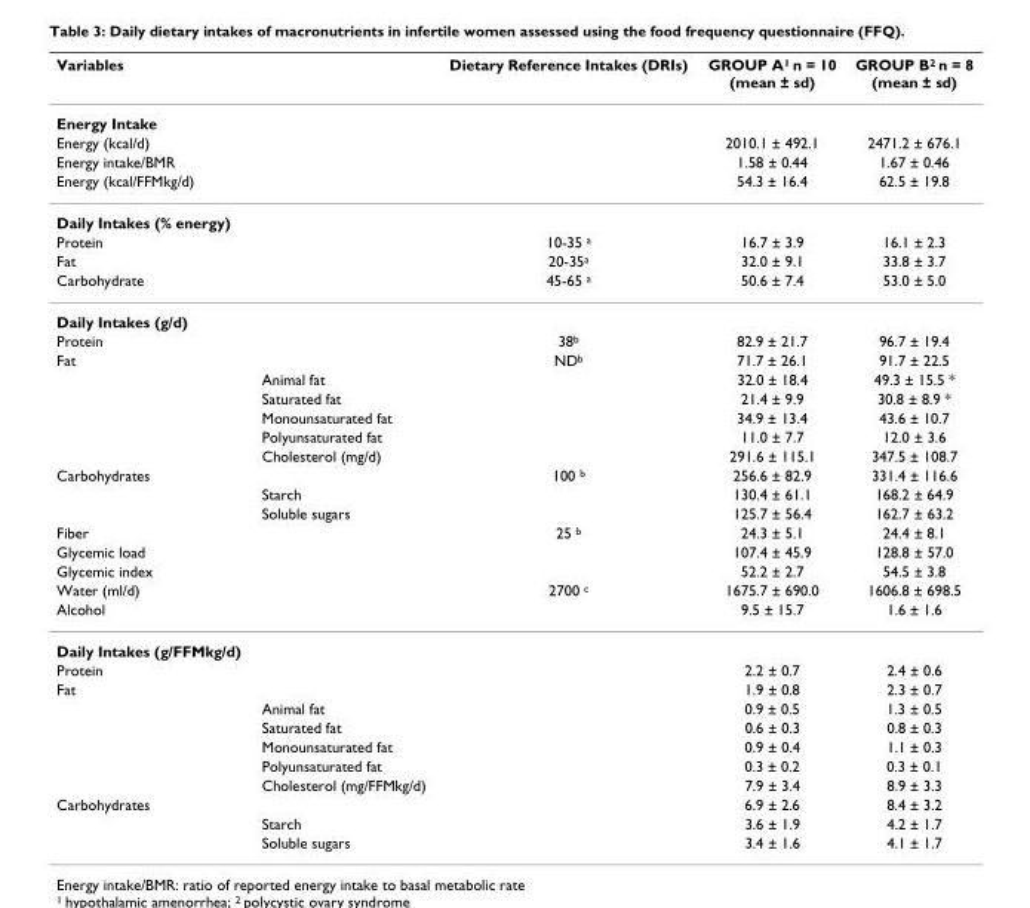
<table><thead><tr><td>Variables</td><td></td><td>Dietary Reference Intakes (DRIs)</td><td>GROUP A<sup>1</sup> n = 10 (mean ± sd)</td><td>GROUP B<sup>2</sup> n = 8 (mean ± sd)</td></tr></thead><tbody><tr><td colspan="5">Energy Intake</td></tr><tr><td>Energy (kcal/d)</td><td></td><td></td><td>2010.1 ± 492.1</td><td>2471.2 ± 676.1</td></tr><tr><td>Energy intake/BMR</td><td></td><td></td><td>1.58 ± 0.44</td><td>1.67 ± 0.46</td></tr><tr><td>Energy (kcal/FFMkg/d)</td><td></td><td></td><td>54.3 ± 16.4</td><td>62.5 ± 19.8</td></tr><tr><td colspan="5">Daily Intakes (% energy)</td></tr><tr><td>Protein</td><td></td><td>10-35 <sup>a</sup></td><td>16.7 ± 3.9</td><td>16.1 ± 2.3</td></tr><tr><td>Fat</td><td></td><td>20-35<sup>a</sup></td><td>32.0 ± 9.1</td><td>33.8 ± 3.7</td></tr><tr><td>Carbohydrate</td><td></td><td>45-65 <sup>a</sup></td><td>50.6 ± 7.4</td><td>53.0 ± 5.0</td></tr><tr><td colspan="5">Daily Intakes (g/d)</td></tr><tr><td>Protein</td><td></td><td>38<sup>b</sup></td><td>82.9 ± 21.7</td><td>96.7 ± 19.4</td></tr><tr><td rowspan="6">Fat</td><td></td><td>ND<sup>b</sup></td><td>71.7 ± 26.1</td><td>91.7 ± 22.5</td></tr><tr><td>Animal fat</td><td></td><td>32.0 ± 18.4</td><td>49.3 ± 15.5 *</td></tr><tr><td>Saturated fat</td><td></td><td>21.4 ± 9.9</td><td>30.8 ± 8.9 *</td></tr><tr><td>Monounsaturated fat</td><td></td><td>34.9 ± 13.4</td><td>43.6 ± 10.7</td></tr><tr><td>Polyunsaturated fat</td><td></td><td>11.0 ± 7.7</td><td>12.0 ± 3.6</td></tr><tr><td>Cholesterol (mg/d)</td><td></td><td>291.6 ± 115.1</td><td>347.5 ± 108.7</td></tr><tr><td rowspan="3">Carbohydrates</td><td></td><td>100 <sup>b</sup></td><td>256.6 ± 82.9</td><td>331.4 ± 116.6</td></tr><tr><td>Starch</td><td></td><td>130.4 ± 61.1</td><td>168.2 ± 64.9</td></tr><tr><td>Soluble sugars</td><td></td><td>125.7 ± 56.4</td><td>162.7 ± 63.2</td></tr><tr><td>Fiber</td><td></td><td>25 <sup>b</sup></td><td>24.3 ± 5.1</td><td>24.4 ± 8.1</td></tr><tr><td>Glycemic load</td><td></td><td></td><td>107.4 ± 45.9</td><td>128.8 ± 57.0</td></tr><tr><td>Glycemic index</td><td></td><td></td><td>52.2 ± 2.7</td><td>54.5 ± 3.8</td></tr><tr><td>Water (ml/d)</td><td></td><td>2700 <sup>c</sup></td><td>1675.7 ± 690.0</td><td>1606.8 ± 698.5</td></tr><tr><td>Alcohol</td><td></td><td></td><td>9.5 ± 15.7</td><td>1.6 ± 1.6</td></tr><tr><td colspan="5">Daily Intakes (g/FFMkg/d)</td></tr><tr><td>Protein</td><td></td><td></td><td>2.2 ± 0.7</td><td>2.4 ± 0.6</td></tr><tr><td rowspan="6">Fat</td><td></td><td></td><td>1.9 ± 0.8</td><td>2.3 ± 0.7</td></tr><tr><td>Animal fat</td><td></td><td>0.9 ± 0.5</td><td>1.3 ± 0.5</td></tr><tr><td>Saturated fat</td><td></td><td>0.6 ± 0.3</td><td>0.8 ± 0.3</td></tr><tr><td>Monounsaturated fat</td><td></td><td>0.9 ± 0.4</td><td>1.1 ± 0.3</td></tr><tr><td>Polyunsaturated fat</td><td></td><td>0.3 ± 0.2</td><td>0.3 ± 0.1</td></tr><tr><td>Cholesterol (mg/FFMkg/d)</td><td></td><td>7.9 ± 3.4</td><td>8.9 ± 3.3</td></tr><tr><td rowspan="3">Carbohydrates</td><td></td><td></td><td>6.9 ± 2.6</td><td>8.4 ± 3.2</td></tr><tr><td>Starch</td><td></td><td>3.6 ± 1.9</td><td>4.2 ± 1.7</td></tr><tr><td>Soluble sugars</td><td></td><td>3.4 ± 1.6</td><td>4.1 ± 1.7</td></tr></tbody></table>